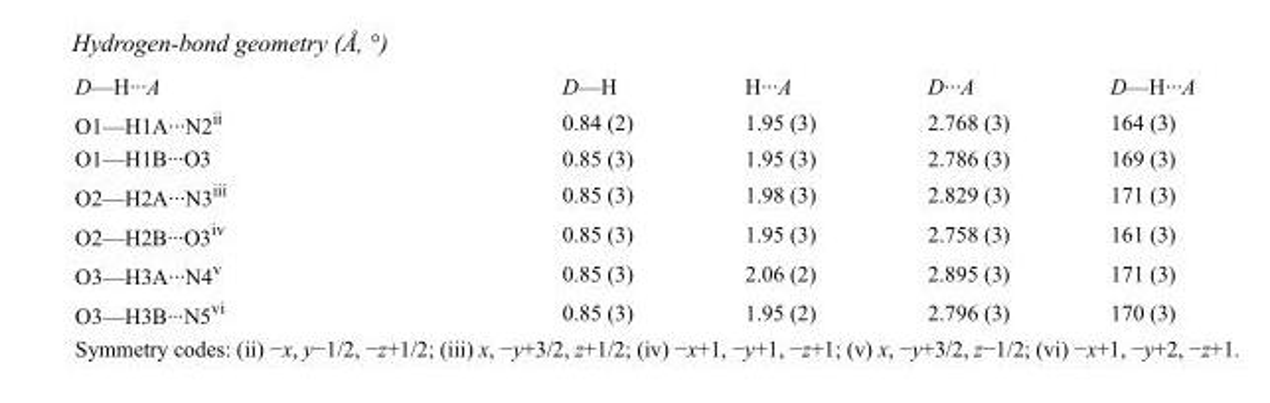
<table><tbody><tr><td>D—H···A</td><td>D—H</td><td>H···A</td><td>D···A</td><td>D—H···A</td></tr><tr><td>O1—H1A···N2<sup>ii</sup></td><td>0.84 (2)</td><td>1.95 (3)</td><td>2.768 (3)</td><td>164 (3)</td></tr><tr><td>O1—H1B···O3</td><td>0.85 (3)</td><td>1.95 (3)</td><td>2.786 (3)</td><td>169 (3)</td></tr><tr><td>O2—H2A···N3<sup>iii</sup></td><td>0.85 (3)</td><td>1.98 (3)</td><td>2.829 (3)</td><td>171 (3)</td></tr><tr><td>O2—H2B···O3<sup>iv</sup></td><td>0.85 (3)</td><td>1.95 (3)</td><td>2.758 (3)</td><td>161 (3)</td></tr><tr><td>O3—H3A···N4<sup>v</sup></td><td>0.85 (3)</td><td>2.06 (2)</td><td>2.895 (3)</td><td>171 (3)</td></tr><tr><td>O3—H3B···N5<sup>vi</sup></td><td>0.85 (3)</td><td>1.95 (2)</td><td>2.796 (3)</td><td>170 (3)</td></tr></tbody></table>